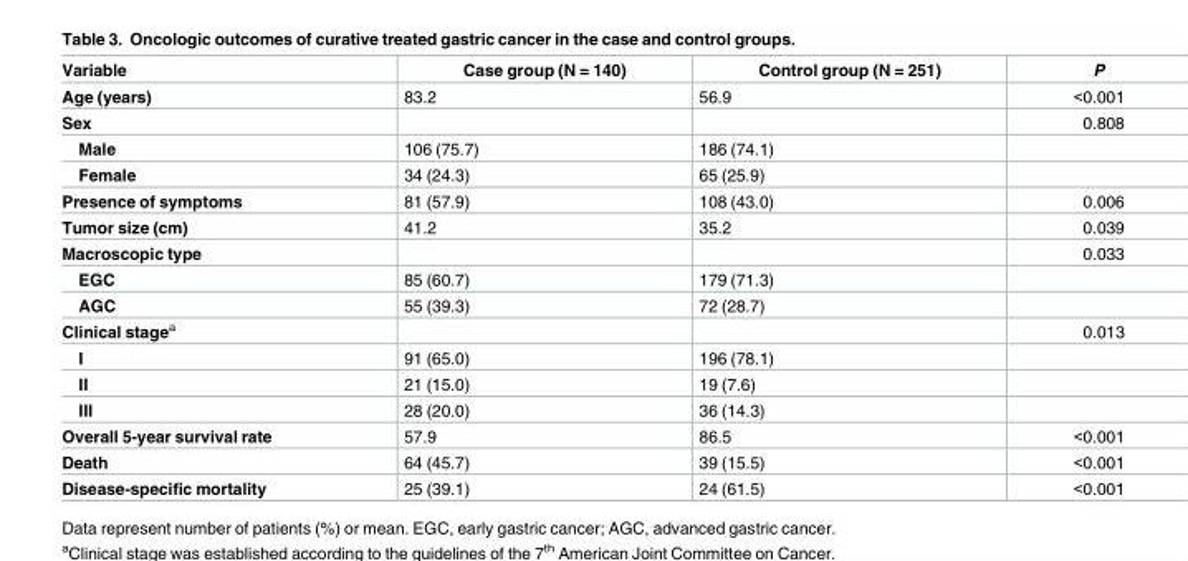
<table><thead><tr><td>Variable</td><td>Case group (N = 140)</td><td>Control group (N = 251)</td><td>P</td></tr></thead><tbody><tr><td>Age (years)</td><td>83.2</td><td>56.9</td><td>&lt;0.001</td></tr><tr><td>Sex</td><td></td><td></td><td>0.808</td></tr><tr><td>Male</td><td>106 (75.7)</td><td>186 (74.1)</td><td></td></tr><tr><td>Female</td><td>34 (24.3)</td><td>65 (25.9)</td><td></td></tr><tr><td>Presence of symptoms</td><td>81 (57.9)</td><td>108 (43.0)</td><td>0.006</td></tr><tr><td>Tumor size (cm)</td><td>41.2</td><td>35.2</td><td>0.039</td></tr><tr><td>Macroscopic type</td><td></td><td></td><td>0.033</td></tr><tr><td>EGC</td><td>85 (60.7)</td><td>179 (71.3)</td><td></td></tr><tr><td>AGC</td><td>55 (39.3)</td><td>72 (28.7)</td><td></td></tr><tr><td>Clinical stage<sup>a</sup></td><td></td><td></td><td>0.013</td></tr><tr><td>I</td><td>91 (65.0)</td><td>196 (78.1)</td><td></td></tr><tr><td>II</td><td>21 (15.0)</td><td>19 (7.6)</td><td></td></tr><tr><td>III</td><td>28 (20.0)</td><td>36 (14.3)</td><td></td></tr><tr><td>Overall 5-year survival rate</td><td>57.9</td><td>86.5</td><td>&lt;0.001</td></tr><tr><td>Death</td><td>64 (45.7)</td><td>39 (15.5)</td><td>&lt;0.001</td></tr><tr><td>Disease-specific mortality</td><td>25 (39.1)</td><td>24 (61.5)</td><td>&lt;0.001</td></tr></tbody></table>